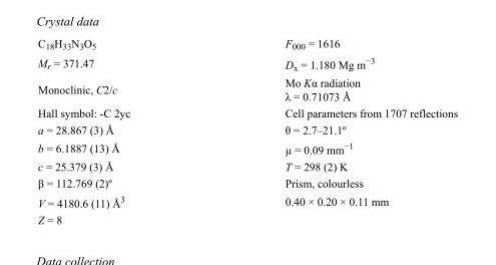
<table><tbody><tr><td>C<sub>18</sub>H<sub>33</sub>N<sub>3</sub>O<sub>5</sub></td><td>F000 = 1616</td></tr><tr><td>M<sub>r</sub> = 371.47</td><td>D<sub>x</sub> = 1.180 Mg m<sup>−3</sup></td></tr><tr><td>Monoclinic, C2/c</td><td>Mo Kα radiation λ = 0.71073 Å</td></tr><tr><td>Hall symbol: -C 2yc</td><td>Cell parameters from 1707 reflections</td></tr><tr><td>a = 28.867 (3) Å</td><td>θ = 2.7–21.1º</td></tr><tr><td>b = 6.1887 (13) Å</td><td>µ = 0.09 mm<sup>−1</sup></td></tr><tr><td>c = 25.379 (3) Å</td><td>T = 298 (2) K</td></tr><tr><td>β = 112.769 (2)º</td><td>Prism, colourless</td></tr><tr><td>V = 4180.6 (11) Å<sup>3</sup></td><td>0.40 × 0.20 × 0.11 mm</td></tr><tr><td>Z = 8</td><td></td></tr></tbody></table>